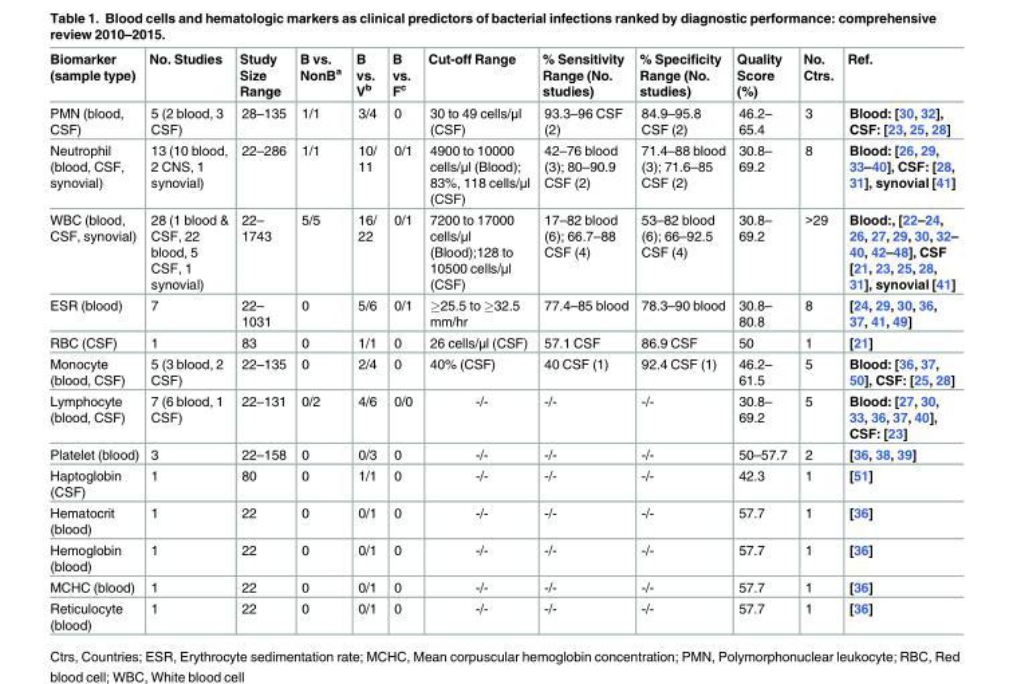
<table><thead><tr><td>Biomarker (sample type)</td><td>No. Studies</td><td>Study Size Range</td><td>B vs. NonB<sup>a</sup></td><td>B vs. V<sup>b</sup></td><td>B vs. F<sup>c</sup></td><td>Cut-off Range</td><td>% Sensitivity Range (No. studies)</td><td>% Specificity Range (No. studies)</td><td>Quality Score (%)</td><td>No. Ctrs.</td><td>Ref.</td></tr></thead><tbody><tr><td>PMN (blood, CSF)</td><td>5 (2 blood, 3 CSF)</td><td>28–135</td><td>1/1</td><td>3/4</td><td>0</td><td>30 to 49 cells/μl (CSF)</td><td>93.3–96 CSF (2)</td><td>84.9–95.8 CSF (2)</td><td>46.2– 65.4</td><td>3</td><td>Blood: [30, 32], CSF: [23, 25, 28]</td></tr><tr><td>Neutrophil (blood, CSF, synovial)</td><td>13 (10 blood, 2 CNS, 1 synovial)</td><td>22–286</td><td>1/1</td><td>10/ 11</td><td>0/1</td><td>4900 to 10000 cells/μl (Blood); 83%, 118 cells/μl (CSF)</td><td>42–76 blood (3); 80–90.9 CSF (2)</td><td>71.4–88 blood (3); 71.6–85 CSF (2)</td><td>30.8– 69.2</td><td>8</td><td>Blood: [26, 29, 33–40], CSF: [28, 31], synovial [41]</td></tr><tr><td>WBC (blood, CSF, synovial)</td><td>28 (1 blood &amp; CSF, 22 blood, 5 CSF, 1 synovial)</td><td>22– 1743</td><td>5/5</td><td>16/ 22</td><td>0/1</td><td>7200 to 17000 cells/μl (Blood);128 to 10500 cells/μl (CSF)</td><td>17–82 blood (6); 66.7–88 CSF (4)</td><td>53–82 blood (6); 66–92.5 CSF (4)</td><td>30.8– 69.2</td><td>&gt;29</td><td>Blood:, [22–24, 26, 27, 29, 30, 32– 40, 42–48], CSF [21, 23, 25, 28, 31], synovial [41]</td></tr><tr><td>ESR (blood)</td><td>7</td><td>22– 1031</td><td>0</td><td>5/6</td><td>0/1</td><td>≥25.5 to ≥32.5 mm/hr</td><td>77.4–85 blood</td><td>78.3–90 blood</td><td>30.8– 80.8</td><td>8</td><td>[24, 29, 30, 36, 37, 41, 49]</td></tr><tr><td>RBC (CSF)</td><td>1</td><td>83</td><td>0</td><td>1/1</td><td>0</td><td>26 cells/μl (CSF)</td><td>57.1 CSF</td><td>86.9 CSF</td><td>50</td><td>1</td><td>[21]</td></tr><tr><td>Monocyte (blood, CSF)</td><td>5 (3 blood, 2 CSF)</td><td>22–135</td><td>0</td><td>2/4</td><td>0</td><td>40% (CSF)</td><td>40 CSF (1)</td><td>92.4 CSF (1)</td><td>46.2– 61.5</td><td>5</td><td>Blood: [36, 37, 50], CSF: [25, 28]</td></tr><tr><td>Lymphocyte (blood, CSF)</td><td>7 (6 blood, 1 CSF)</td><td>22–131</td><td>0/2</td><td>4/6</td><td>0/0</td><td>-/-</td><td>-/-</td><td>-/-</td><td>30.8– 69.2</td><td>5</td><td>Blood: [27, 30, 33, 36, 37, 40], CSF: [23]</td></tr><tr><td>Platelet (blood)</td><td>3</td><td>22–158</td><td>0</td><td>0/3</td><td>0</td><td>-/-</td><td>-/-</td><td>-/-</td><td>50–57.7</td><td>2</td><td>[36, 38, 39]</td></tr><tr><td>Haptoglobin (CSF)</td><td>1</td><td>80</td><td>0</td><td>1/1</td><td>0</td><td>-/-</td><td>-/-</td><td>-/-</td><td>42.3</td><td>1</td><td>[51]</td></tr><tr><td>Hematocrit (blood)</td><td>1</td><td>22</td><td>0</td><td>0/1</td><td>0</td><td>-/-</td><td>-/-</td><td>-/-</td><td>57.7</td><td>1</td><td>[36]</td></tr><tr><td>Hemoglobin (blood)</td><td>1</td><td>22</td><td>0</td><td>0/1</td><td>0</td><td>-/-</td><td>-/-</td><td>-/-</td><td>57.7</td><td>1</td><td>[36]</td></tr><tr><td>MCHC (blood)</td><td>1</td><td>22</td><td>0</td><td>0/1</td><td>0</td><td>-/-</td><td>-/-</td><td>-/-</td><td>57.7</td><td>1</td><td>[36]</td></tr><tr><td>Reticulocyte (blood)</td><td>1</td><td>22</td><td>0</td><td>0/1</td><td>0</td><td>-/-</td><td>-/-</td><td>-/-</td><td>57.7</td><td>1</td><td>[36]</td></tr></tbody></table>